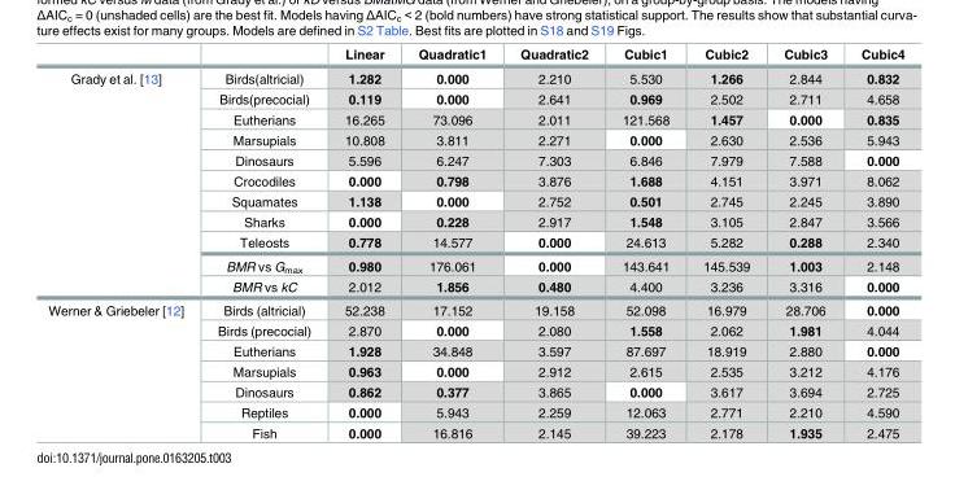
<table><thead><tr><td></td><td></td><td>Linear</td><td>Quadratic1</td><td>Quadratic2</td><td>Cubic1</td><td>Cubic2</td><td>Cubic3</td><td>Cubic4</td></tr></thead><tbody><tr><td rowspan="11">Grady et al. [13]</td><td>Birds(altricial)</td><td>1.282</td><td>0.000</td><td>2.210</td><td>5.530</td><td>1.266</td><td>2.844</td><td>0.832</td></tr><tr><td>Birds(precocial)</td><td>0.119</td><td>0.000</td><td>2.641</td><td>0.969</td><td>2.502</td><td>2.711</td><td>4.658</td></tr><tr><td>Eutherians</td><td>16.265</td><td>73.096</td><td>2.011</td><td>121.568</td><td>1.457</td><td>0.000</td><td>0.835</td></tr><tr><td>Marsupials</td><td>10.808</td><td>3.811</td><td>2.271</td><td>0.000</td><td>2.630</td><td>2.536</td><td>5.943</td></tr><tr><td>Dinosaurs</td><td>5.596</td><td>6.247</td><td>7.303</td><td>6.846</td><td>7.979</td><td>7.588</td><td>0.000</td></tr><tr><td>Crocodiles</td><td>0.000</td><td>0.798</td><td>3.876</td><td>1.688</td><td>4.151</td><td>3.971</td><td>8.062</td></tr><tr><td>Squamates</td><td>1.138</td><td>0.000</td><td>2.752</td><td>0.501</td><td>2.745</td><td>2.245</td><td>3.890</td></tr><tr><td>Sharks</td><td>0.000</td><td>0.228</td><td>2.917</td><td>1.548</td><td>3.105</td><td>2.847</td><td>3.566</td></tr><tr><td>Teleosts</td><td>0.778</td><td>14.577</td><td>0.000</td><td>24.613</td><td>5.282</td><td>0.288</td><td>2.340</td></tr><tr><td>BMR vs G<sub>max</sub></td><td>0.980</td><td>176.061</td><td>0.000</td><td>143.641</td><td>145.539</td><td>1.003</td><td>2.148</td></tr><tr><td>BMR vs kC</td><td>2.012</td><td>1.856</td><td>0.480</td><td>4.400</td><td>3.236</td><td>3.316</td><td>0.000</td></tr><tr><td rowspan="7">Werner &amp; Griebeler [12]</td><td>Birds (altricial)</td><td>52.238</td><td>17.152</td><td>19.158</td><td>52.098</td><td>16.979</td><td>28.706</td><td>0.000</td></tr><tr><td>Birds (precocial)</td><td>2.870</td><td>0.000</td><td>2.080</td><td>1.558</td><td>2.062</td><td>1.981</td><td>4.044</td></tr><tr><td>Eutherians</td><td>1.928</td><td>34.848</td><td>3.597</td><td>87.697</td><td>18.919</td><td>2.880</td><td>0.000</td></tr><tr><td>Marsupials</td><td>0.963</td><td>0.000</td><td>2.912</td><td>2.615</td><td>2.535</td><td>3.212</td><td>4.176</td></tr><tr><td>Dinosaurs</td><td>0.862</td><td>0.377</td><td>3.865</td><td>0.000</td><td>3.617</td><td>3.694</td><td>2.725</td></tr><tr><td>Reptiles</td><td>0.000</td><td>5.943</td><td>2.259</td><td>12.063</td><td>2.771</td><td>2.210</td><td>4.590</td></tr><tr><td>Fish</td><td>0.000</td><td>16.816</td><td>2.145</td><td>39.223</td><td>2.178</td><td>1.935</td><td>2.475</td></tr></tbody></table>